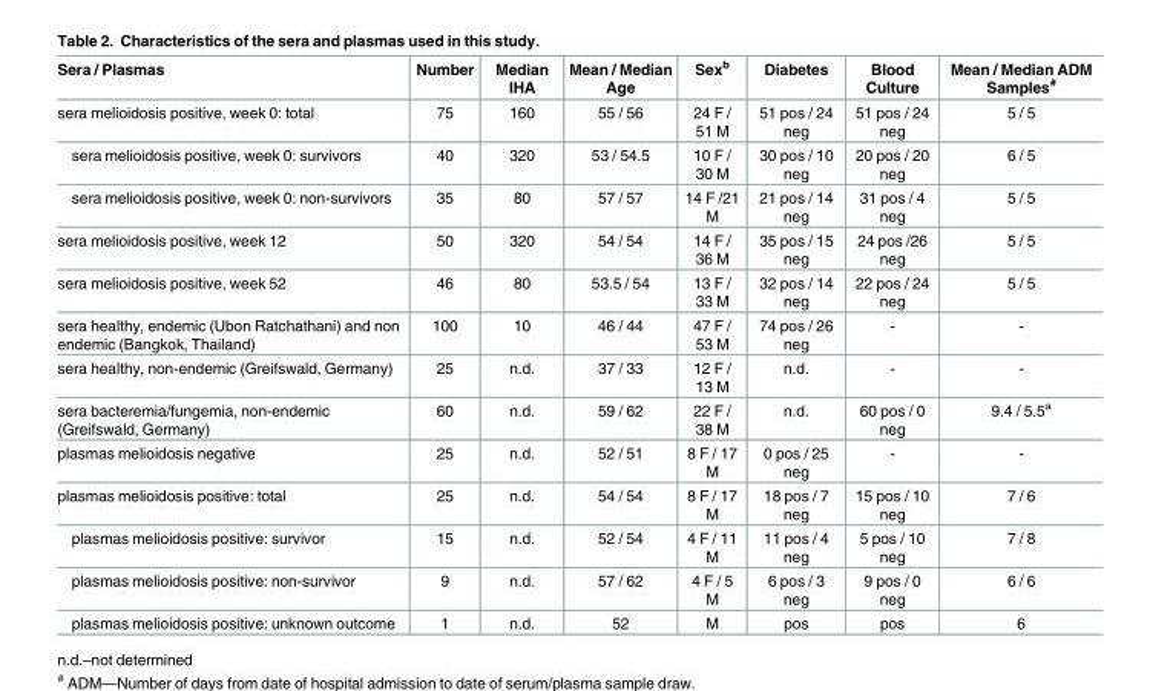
<table><thead><tr><td>Sera / Plasmas</td><td>Number</td><td>Median IHA</td><td>Mean / Median Age</td><td>Sex<sup>b</sup></td><td>Diabetes</td><td>Blood Culture</td><td>Mean / Median ADM Samples<sup>#</sup></td></tr></thead><tbody><tr><td>sera melioidosis positive, week 0: total</td><td>75</td><td>160</td><td>55 / 56</td><td>24 F / 51 M</td><td>51 pos / 24 neg</td><td>51 pos / 24 neg</td><td>5 / 5</td></tr><tr><td>sera melioidosis positive, week 0: survivors</td><td>40</td><td>320</td><td>53 / 54.5</td><td>10 F / 30 M</td><td>30 pos / 10 neg</td><td>20 pos / 20 neg</td><td>6 / 5</td></tr><tr><td>sera melioidosis positive, week 0: non-survivors</td><td>35</td><td>80</td><td>57 / 57</td><td>14 F /21 M</td><td>21 pos / 14 neg</td><td>31 pos / 4 neg</td><td>5 / 5</td></tr><tr><td>sera melioidosis positive, week 12</td><td>50</td><td>320</td><td>54 / 54</td><td>14 F / 36 M</td><td>35 pos / 15 neg</td><td>24 pos /26 neg</td><td>5 / 5</td></tr><tr><td>sera melioidosis positive, week 52</td><td>46</td><td>80</td><td>53.5 / 54</td><td>13 F / 33 M</td><td>32 pos / 14 neg</td><td>22 pos / 24 neg</td><td>5 / 5</td></tr><tr><td>sera healthy, endemic (Ubon Ratchathani) and non endemic (Bangkok, Thailand)</td><td>100</td><td>10</td><td>46 / 44</td><td>47 F / 53 M</td><td>74 pos / 26 neg</td><td>-</td><td>-</td></tr><tr><td>sera healthy, non-endemic (Greifswald, Germany)</td><td>25</td><td>n.d.</td><td>37 / 33</td><td>12 F / 13 M</td><td>n.d.</td><td>-</td><td>-</td></tr><tr><td>sera bacteremia/fungemia, non-endemic (Greifswald, Germany)</td><td>60</td><td>n.d.</td><td>59 / 62</td><td>22 F / 38 M</td><td>n.d.</td><td>60 pos / 0 neg</td><td>9.4 / 5.5<sup>a</sup></td></tr><tr><td>plasmas melioidosis negative</td><td>25</td><td>n.d.</td><td>52 / 51</td><td>8 F / 17 M</td><td>0 pos / 25 neg</td><td>-</td><td>-</td></tr><tr><td>plasmas melioidosis positive: total</td><td>25</td><td>n.d.</td><td>54 / 54</td><td>8 F / 17 M</td><td>18 pos / 7 neg</td><td>15 pos / 10 neg</td><td>7 / 6</td></tr><tr><td>plasmas melioidosis positive: survivor</td><td>15</td><td>n.d.</td><td>52 / 54</td><td>4 F / 11 M</td><td>11 pos / 4 neg</td><td>5 pos / 10 neg</td><td>7 / 8</td></tr><tr><td>plasmas melioidosis positive: non-survivor</td><td>9</td><td>n.d.</td><td>57 / 62</td><td>4 F / 5 M</td><td>6 pos / 3 neg</td><td>9 pos / 0 neg</td><td>6 / 6</td></tr><tr><td>plasmas melioidosis positive: unknown outcome</td><td>1</td><td>n.d.</td><td>52</td><td>M</td><td>pos</td><td>pos</td><td>6</td></tr></tbody></table>